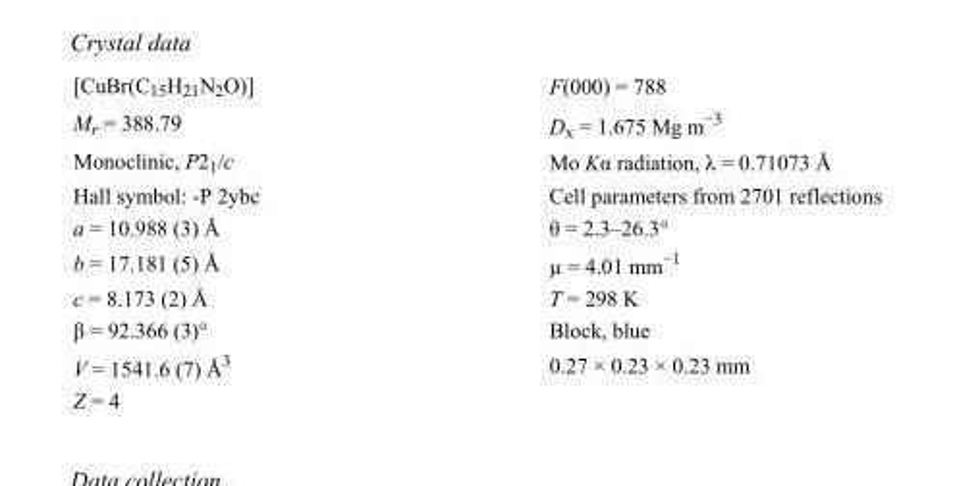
<table><tbody><tr><td>[CuBr(C<sub>15</sub>H<sub>21</sub>N<sub>2</sub>O)]</td><td>F(000) = 788</td></tr><tr><td>M<sub>r</sub> = 388.79</td><td>D<sub>x</sub> = 1.675 Mg m<sup>−3</sup></td></tr><tr><td>Monoclinic, P2<sub>1</sub>/c</td><td>Mo Kα radiation, λ = 0.71073 Å</td></tr><tr><td>Hall symbol: -P 2ybc</td><td>Cell parameters from 2701 reflections</td></tr><tr><td>a = 10.988 (3) Å</td><td>θ = 2.3–26.3°</td></tr><tr><td>b = 17.181 (5) Å</td><td>µ = 4.01 mm<sup>−1</sup></td></tr><tr><td>c = 8.173 (2) Å</td><td>T = 298 K</td></tr><tr><td>β = 92.366 (3)°</td><td>Block, blue</td></tr><tr><td>V = 1541.6 (7) Å<sup>3</sup></td><td>0.27 × 0.23 × 0.23 mm</td></tr><tr><td>Z = 4</td><td></td></tr></tbody></table>